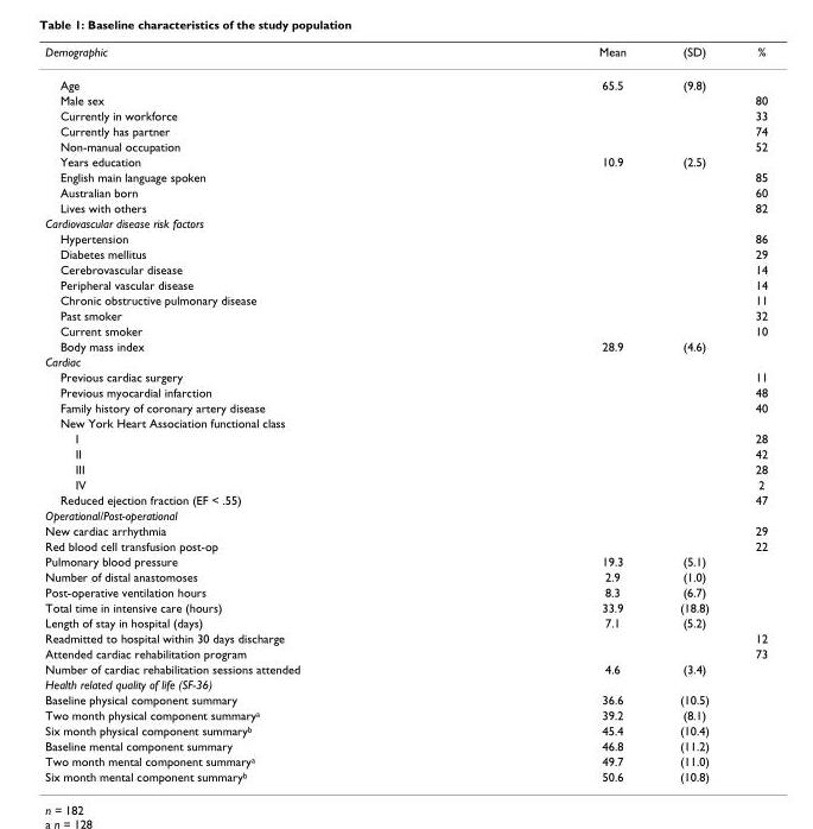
<table><thead><tr><td>Demographic</td><td>Mean</td><td>(SD)</td><td>%</td></tr></thead><tbody><tr><td>Age</td><td>65.5</td><td>(9.8)</td><td></td></tr><tr><td>Male sex</td><td></td><td></td><td>80</td></tr><tr><td>Currently in workforce</td><td></td><td></td><td>33</td></tr><tr><td>Currently has partner</td><td></td><td></td><td>74</td></tr><tr><td>Non-manual occupation</td><td></td><td></td><td>52</td></tr><tr><td>Years education</td><td>10.9</td><td>(2.5)</td><td></td></tr><tr><td>English main language spoken</td><td></td><td></td><td>85</td></tr><tr><td>Australian born</td><td></td><td></td><td>60</td></tr><tr><td>Lives with others</td><td></td><td></td><td>82</td></tr><tr><td colspan="4">Cardiovascular disease risk factors</td></tr><tr><td>Hypertension</td><td></td><td></td><td>86</td></tr><tr><td>Diabetes mellitus</td><td></td><td></td><td>29</td></tr><tr><td>Cerebrovascular disease</td><td></td><td></td><td>14</td></tr><tr><td>Peripheral vascular disease</td><td></td><td></td><td>14</td></tr><tr><td>Chronic obstructive pulmonary disease</td><td></td><td></td><td>11</td></tr><tr><td>Past smoker</td><td></td><td></td><td>32</td></tr><tr><td>Current smoker</td><td></td><td></td><td>10</td></tr><tr><td>Body mass index</td><td>28.9</td><td>(4.6)</td><td></td></tr><tr><td colspan="4">Cardiac</td></tr><tr><td>Previous cardiac surgery</td><td></td><td></td><td>11</td></tr><tr><td>Previous myocardial infarction</td><td></td><td></td><td>48</td></tr><tr><td>Family history of coronary artery disease</td><td></td><td></td><td>40</td></tr><tr><td colspan="4">New York Heart Association functional class</td></tr><tr><td>I</td><td></td><td></td><td>28</td></tr><tr><td>II</td><td></td><td></td><td>42</td></tr><tr><td>III</td><td></td><td></td><td>28</td></tr><tr><td>IV</td><td></td><td></td><td>2</td></tr><tr><td>Reduced ejection fraction (EF &lt; .55)</td><td></td><td></td><td>47</td></tr><tr><td colspan="4">Operational/Post-operational</td></tr><tr><td>New cardiac arrhythmia</td><td></td><td></td><td>29</td></tr><tr><td>Red blood cell transfusion post-op</td><td></td><td></td><td>22</td></tr><tr><td>Pulmonary blood pressure</td><td>19.3</td><td>(5.1)</td><td></td></tr><tr><td>Number of distal anastomoses</td><td>2.9</td><td>(1.0)</td><td></td></tr><tr><td>Post-operative ventilation hours</td><td>8.3</td><td>(6.7)</td><td></td></tr><tr><td>Total time in intensive care (hours)</td><td>33.9</td><td>(18.8)</td><td></td></tr><tr><td>Length of stay in hospital (days)</td><td>7.1</td><td>(5.2)</td><td></td></tr><tr><td>Readmitted to hospital within 30 days discharge</td><td></td><td></td><td>12</td></tr><tr><td>Attended cardiac rehabilitation program</td><td></td><td></td><td>73</td></tr><tr><td>Number of cardiac rehabilitation sessions attended</td><td>4.6</td><td>(3.4)</td><td></td></tr><tr><td colspan="4">Health related quality of life (SF-36)</td></tr><tr><td>Baseline physical component summary</td><td>36.6</td><td>(10.5)</td><td></td></tr><tr><td>Two month physical component summary<sup>a</sup></td><td>39.2</td><td>(8.1)</td><td></td></tr><tr><td>Six month physical component summary<sup>b</sup></td><td>45.4</td><td>(10.4)</td><td></td></tr><tr><td>Baseline mental component summary</td><td>46.8</td><td>(11.2)</td><td></td></tr><tr><td>Two month mental component summary<sup>a</sup></td><td>49.7</td><td>(11.0)</td><td></td></tr><tr><td>Six month mental component summary<sup>b</sup></td><td>50.6</td><td>(10.8)</td><td></td></tr></tbody></table>